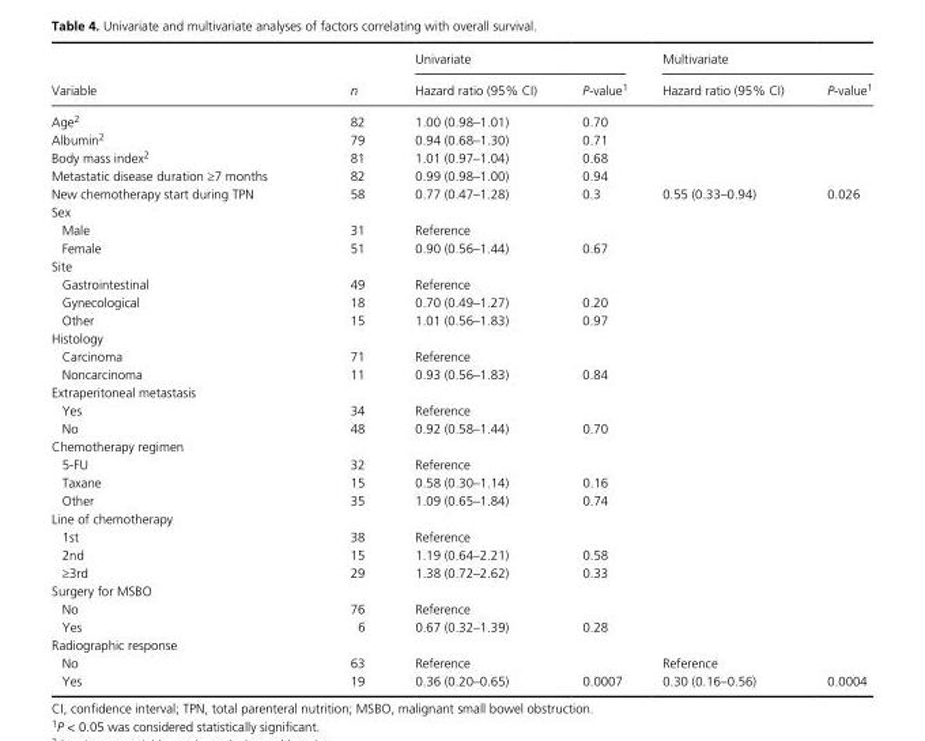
<table><thead><tr><td rowspan="2">Variable</td><td rowspan="2">n</td><td colspan="2">Univariate</td><td colspan="2">Multivariate</td></tr><tr><td>Hazard ratio (95% CI)</td><td>P- value1</td><td>Hazard ratio (95% CI)</td><td>P- value1</td></tr></thead><tbody><tr><td>Age2</td><td>82</td><td>1.00 (0.98–1.01)</td><td>0.70</td><td></td><td></td></tr><tr><td>Albumin2</td><td>79</td><td>0.94 (0.68–1.30)</td><td>0.71</td><td></td><td></td></tr><tr><td>Body mass index2</td><td>81</td><td>1.01 (0.97–1.04)</td><td>0.68</td><td></td><td></td></tr><tr><td>Metastatic disease duration ≥7 months</td><td>82</td><td>0.99 (0.98–1.00)</td><td>0.94</td><td></td><td></td></tr><tr><td>New chemotherapy start during TPN</td><td>58</td><td>0.77 (0.47–1.28)</td><td>0.3</td><td>0.55 (0.33–0.94)</td><td>0.026</td></tr><tr><td colspan="6">Sex</td></tr><tr><td>Male</td><td>31</td><td>Reference</td><td></td><td></td><td></td></tr><tr><td>Female</td><td>51</td><td>0.90 (0.56–1.44)</td><td>0.67</td><td></td><td></td></tr><tr><td colspan="6">Site</td></tr><tr><td>Gastrointestinal</td><td>49</td><td>Reference</td><td></td><td></td><td></td></tr><tr><td>Gynecological</td><td>18</td><td>0.70 (0.49–1.27)</td><td>0.20</td><td></td><td></td></tr><tr><td>Other</td><td>15</td><td>1.01 (0.56–1.83)</td><td>0.97</td><td></td><td></td></tr><tr><td colspan="6">Histology</td></tr><tr><td>Carcinoma</td><td>71</td><td>Reference</td><td></td><td></td><td></td></tr><tr><td>Noncarcinoma</td><td>11</td><td>0.93 (0.56–1.83)</td><td>0.84</td><td></td><td></td></tr><tr><td colspan="6">Extraperitoneal metastasis</td></tr><tr><td>Yes</td><td>34</td><td>Reference</td><td></td><td></td><td></td></tr><tr><td>No</td><td>48</td><td>0.92 (0.58–1.44)</td><td>0.70</td><td></td><td></td></tr><tr><td colspan="6">Chemotherapy regimen</td></tr><tr><td>5- FU</td><td>32</td><td>Reference</td><td></td><td></td><td></td></tr><tr><td>Taxane</td><td>15</td><td>0.58 (0.30–1.14)</td><td>0.16</td><td></td><td></td></tr><tr><td>Other</td><td>35</td><td>1.09 (0.65–1.84)</td><td>0.74</td><td></td><td></td></tr><tr><td colspan="6">Line of chemotherapy</td></tr><tr><td>1st</td><td>38</td><td>Reference</td><td></td><td></td><td></td></tr><tr><td>2nd</td><td>15</td><td>1.19 (0.64–2.21)</td><td>0.58</td><td></td><td></td></tr><tr><td>≥3rd</td><td>29</td><td>1.38 (0.72–2.62)</td><td>0.33</td><td></td><td></td></tr><tr><td colspan="6">Surgery for MSBO</td></tr><tr><td>No</td><td>76</td><td>Reference</td><td></td><td></td><td></td></tr><tr><td>Yes</td><td>6</td><td>0.67 (0.32–1.39)</td><td>0.28</td><td></td><td></td></tr><tr><td colspan="6">Radiographic response</td></tr><tr><td>No</td><td>63</td><td>Reference</td><td></td><td>Reference</td><td></td></tr><tr><td>Yes</td><td>19</td><td>0.36 (0.20–0.65)</td><td>0.0007</td><td>0.30 (0.16–0.56)</td><td>0.0004</td></tr></tbody></table>